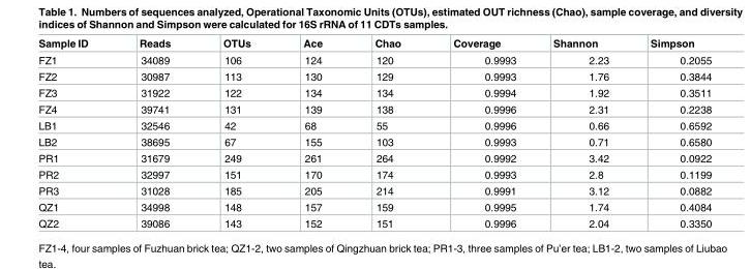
<table><thead><tr><td>Sample ID</td><td>Reads</td><td>OTUs</td><td>Ace</td><td>Chao</td><td>Coverage</td><td>Shannon</td><td>Simpson</td></tr></thead><tbody><tr><td>FZ1</td><td>34089</td><td>106</td><td>124</td><td>120</td><td>0.9993</td><td>2.23</td><td>0.2055</td></tr><tr><td>FZ2</td><td>30987</td><td>113</td><td>130</td><td>129</td><td>0.9993</td><td>1.76</td><td>0.3844</td></tr><tr><td>FZ3</td><td>31922</td><td>122</td><td>134</td><td>134</td><td>0.9994</td><td>1.92</td><td>0.3511</td></tr><tr><td>FZ4</td><td>39741</td><td>131</td><td>139</td><td>138</td><td>0.9996</td><td>2.31</td><td>0.2238</td></tr><tr><td>LB1</td><td>32546</td><td>42</td><td>68</td><td>55</td><td>0.9996</td><td>0.66</td><td>0.6592</td></tr><tr><td>LB2</td><td>38695</td><td>67</td><td>155</td><td>103</td><td>0.9993</td><td>0.71</td><td>0.6580</td></tr><tr><td>PR1</td><td>31679</td><td>249</td><td>261</td><td>264</td><td>0.9992</td><td>3.42</td><td>0.0922</td></tr><tr><td>PR2</td><td>32997</td><td>151</td><td>170</td><td>174</td><td>0.9993</td><td>2.8</td><td>0.1199</td></tr><tr><td>PR3</td><td>31028</td><td>185</td><td>205</td><td>214</td><td>0.9991</td><td>3.12</td><td>0.0882</td></tr><tr><td>QZ1</td><td>34998</td><td>148</td><td>157</td><td>159</td><td>0.9995</td><td>1.74</td><td>0.4084</td></tr><tr><td>QZ2</td><td>39086</td><td>143</td><td>152</td><td>151</td><td>0.9996</td><td>2.04</td><td>0.3350</td></tr></tbody></table>